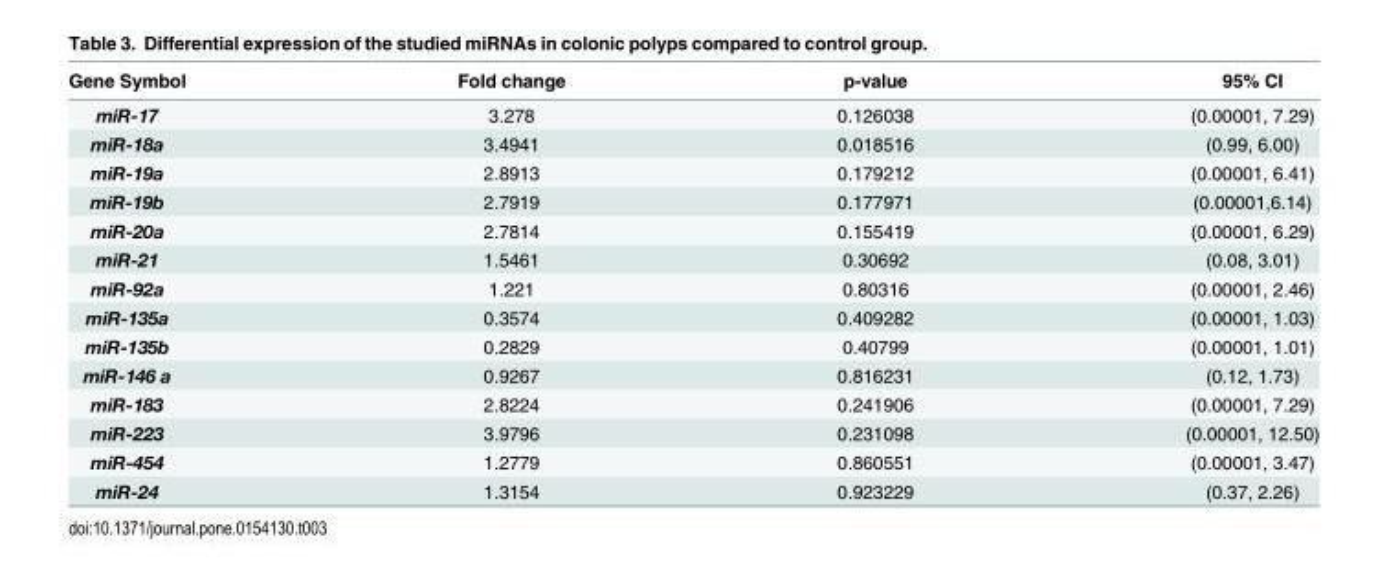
<table><thead><tr><td>Gene Symbol</td><td>Fold change</td><td>p-value</td><td>95% CI</td></tr></thead><tbody><tr><td>miR-17</td><td>3.278</td><td>0.126038</td><td>(0.00001, 7.29)</td></tr><tr><td>miR-18a</td><td>3.4941</td><td>0.018516</td><td>(0.99, 6.00)</td></tr><tr><td>miR-19a</td><td>2.8913</td><td>0.179212</td><td>(0.00001, 6.41)</td></tr><tr><td>miR-19b</td><td>2.7919</td><td>0.177971</td><td>(0.00001,6.14)</td></tr><tr><td>miR-20a</td><td>2.7814</td><td>0.155419</td><td>(0.00001, 6.29)</td></tr><tr><td>miR-21</td><td>1.5461</td><td>0.30692</td><td>(0.08, 3.01)</td></tr><tr><td>miR-92a</td><td>1.221</td><td>0.80316</td><td>(0.00001, 2.46)</td></tr><tr><td>miR-135a</td><td>0.3574</td><td>0.409282</td><td>(0.00001, 1.03)</td></tr><tr><td>miR-135b</td><td>0.2829</td><td>0.40799</td><td>(0.00001, 1.01)</td></tr><tr><td>miR-146 a</td><td>0.9267</td><td>0.816231</td><td>(0.12, 1.73)</td></tr><tr><td>miR-183</td><td>2.8224</td><td>0.241906</td><td>(0.00001, 7.29)</td></tr><tr><td>miR-223</td><td>3.9796</td><td>0.231098</td><td>(0.00001, 12.50)</td></tr><tr><td>miR-454</td><td>1.2779</td><td>0.860551</td><td>(0.00001, 3.47)</td></tr><tr><td>miR-24</td><td>1.3154</td><td>0.923229</td><td>(0.37, 2.26)</td></tr></tbody></table>